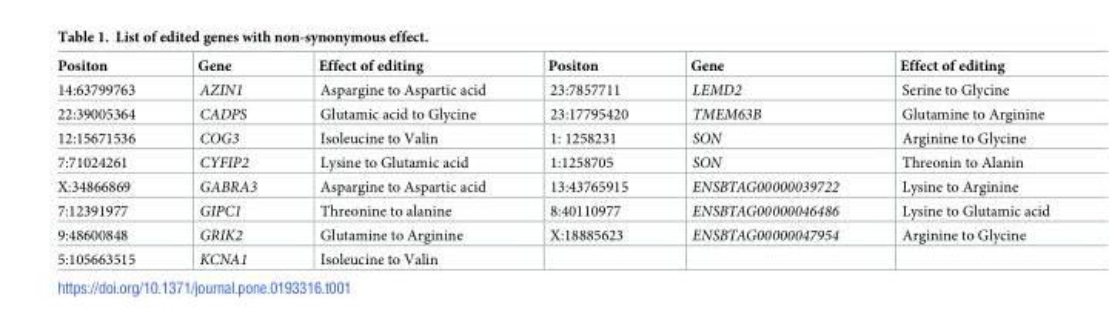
<table><thead><tr><td>Positon</td><td>Gene</td><td>Effect of editing</td><td>Positon</td><td>Gene</td><td>Effect of editing</td></tr></thead><tbody><tr><td>14:63799763</td><td>AZIN1</td><td>Aspargine to Aspartic acid</td><td>23:7857711</td><td>LEMD2</td><td>Serine to Glycine</td></tr><tr><td>22:39005364</td><td>CADPS</td><td>Glutamic acid to Glycine</td><td>23:17795420</td><td>TMEM63B</td><td>Glutamine to Arginine</td></tr><tr><td>12:15671536</td><td>COG3</td><td>Isoleucine to Valin</td><td>1: 1258231</td><td>SON</td><td>Arginine to Glycine</td></tr><tr><td>7:71024261</td><td>CYFIP2</td><td>Lysine to Glutamic acid</td><td>1:1258705</td><td>SON</td><td>Threonin to Alanin</td></tr><tr><td>X:34866869</td><td>GABRA3</td><td>Aspargine to Aspartic acid</td><td>13:43765915</td><td>ENSBTAG00000039722</td><td>Lysine to Arginine</td></tr><tr><td>7:12391977</td><td>GIPC1</td><td>Threonine to alanine</td><td>8:40110977</td><td>ENSBTAG00000046486</td><td>Lysine to Glutamic acid</td></tr><tr><td>9:48600848</td><td>GRIK2</td><td>Glutamine to Arginine</td><td>X:18885623</td><td>ENSBTAG00000047954</td><td>Arginine to Glycine</td></tr><tr><td>5:105663515</td><td>KCNA1</td><td>Isoleucine to Valin</td><td></td><td></td><td></td></tr></tbody></table>